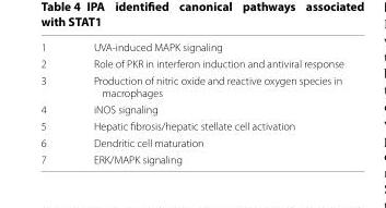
<table><tbody><tr><td>1</td><td>UVA-induced MAPK signaling</td></tr><tr><td>2</td><td>Role of PKR in interferon induction and antiviral response</td></tr><tr><td>3</td><td>Production of nitric oxide and reactive oxygen species in macrophages</td></tr><tr><td>4</td><td>iNOS signaling</td></tr><tr><td>5</td><td>Hepatic fibrosis/hepatic stellate cell activation</td></tr><tr><td>6</td><td>Dendritic cell maturation</td></tr><tr><td>7</td><td>ERK/MAPK signaling</td></tr></tbody></table>